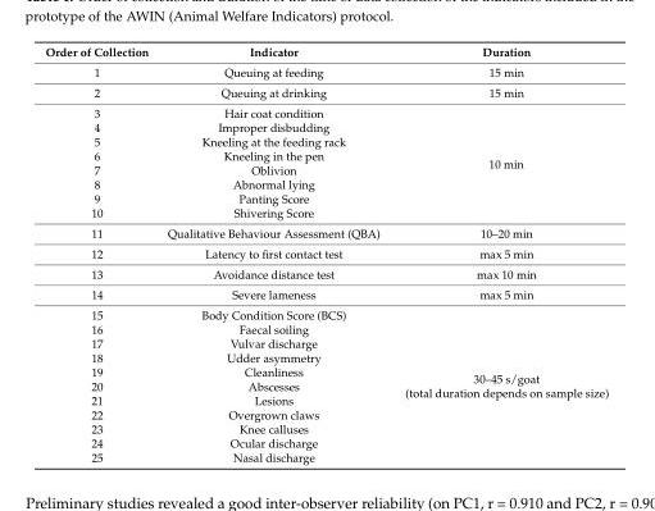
<table><thead><tr><td>Order of Collection</td><td>Indicator</td><td>Duration</td></tr></thead><tbody><tr><td>1</td><td>Queuing at feeding</td><td>15 min</td></tr><tr><td>2</td><td>Queuing at drinking</td><td>15 min</td></tr><tr><td>3</td><td>Hair coat condition</td><td rowspan="8">10 min</td></tr><tr><td>4</td><td>Improper disbudding</td></tr><tr><td>5</td><td>Kneeling at the feeding rack</td></tr><tr><td>6</td><td>Kneeling in the pen</td></tr><tr><td>7</td><td>Oblivion</td></tr><tr><td>8</td><td>Abnormal lying</td></tr><tr><td>9</td><td>Panting Score</td></tr><tr><td>10</td><td>Shivering Score</td></tr><tr><td>11</td><td>Qualitative Behaviour Assessment (QBA)</td><td>10–20 min</td></tr><tr><td>12</td><td>Latency to first contact test</td><td>max 5 min</td></tr><tr><td>13</td><td>Avoidance distance test</td><td>max 10 min</td></tr><tr><td>14</td><td>Severe lameness</td><td>max 5 min</td></tr><tr><td>15</td><td>Body Condition Score (BCS)</td><td rowspan="11">30–45 s/goat (total duration depends on sample size)</td></tr><tr><td>16</td><td>Faecal soiling</td></tr><tr><td>17</td><td>Vulvar discharge</td></tr><tr><td>18</td><td>Udder asymmetry</td></tr><tr><td>19</td><td>Cleanliness</td></tr><tr><td>20</td><td>Abscesses</td></tr><tr><td>21</td><td>Lesions</td></tr><tr><td>22</td><td>Overgrown claws</td></tr><tr><td>23</td><td>Knee calluses</td></tr><tr><td>24</td><td>Ocular discharge</td></tr><tr><td>25</td><td>Nasal discharge</td></tr></tbody></table>